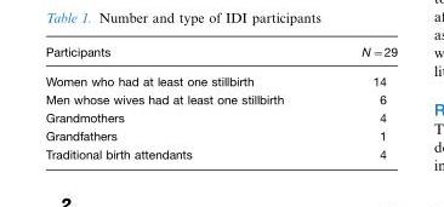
<table><thead><tr><td>Participants</td><td>N=29</td></tr></thead><tbody><tr><td>Women who had at least one stillbirth</td><td>14</td></tr><tr><td>Men whose wives had at least one stillbirth</td><td>6</td></tr><tr><td>Grandmothers</td><td>4</td></tr><tr><td>Grandfathers</td><td>1</td></tr><tr><td>Traditional birth attendants</td><td>4</td></tr></tbody></table>